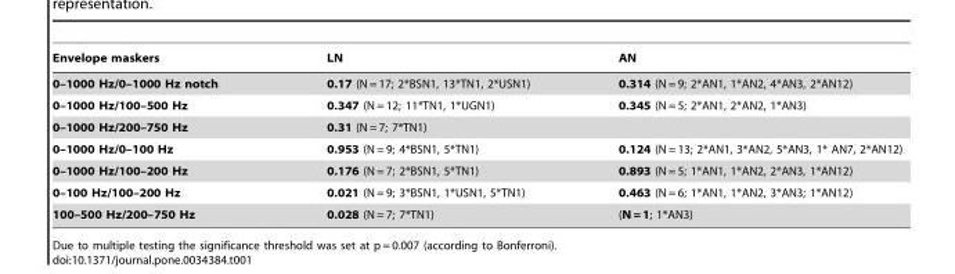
<table><thead><tr><td>Envelope maskers</td><td>LN</td><td>AN</td></tr></thead><tbody><tr><td>0–1000 Hz/0–1000 Hz notch</td><td>0.17 (N = 17; 2*BSN1, 13*TN1, 2*USN1)</td><td>0.314 (N = 9; 2*AN1, 1*AN2, 4*AN3, 2*AN12)</td></tr><tr><td>0–1000 Hz/100–500 Hz</td><td>0.347 (N = 12; 11*TN1, 1*UGN1)</td><td>0.345 (N = 5; 2*AN1, 2*AN2, 1*AN3)</td></tr><tr><td>0–1000 Hz/200–750 Hz</td><td>0.31 (N = 7; 7*TN1)</td><td></td></tr><tr><td>0–1000 Hz/0–100 Hz</td><td>0.953 (N = 9; 4*BSN1, 5*TN1)</td><td>0.124 (N = 13; 2*AN1, 3*AN2, 5*AN3, 1* AN7, 2*AN12)</td></tr><tr><td>0–1000 Hz/100–200 Hz</td><td>0.176 (N = 7; 2*BSN1, 5*TN1)</td><td>0.893 (N = 5; 1*AN1, 1*AN2, 2*AN3, 1*AN12)</td></tr><tr><td>0–100 Hz/100–200 Hz</td><td>0.021 (N = 9; 3*BSN1, 1*USN1, 5*TN1)</td><td>0.463 (N = 6; 1*AN1, 1*AN2, 3*AN3; 1*AN12)</td></tr><tr><td>100–500 Hz/200–750 Hz</td><td>0.028 (N = 7; 7*TN1)</td><td>(N = 1; 1*AN3)</td></tr></tbody></table>